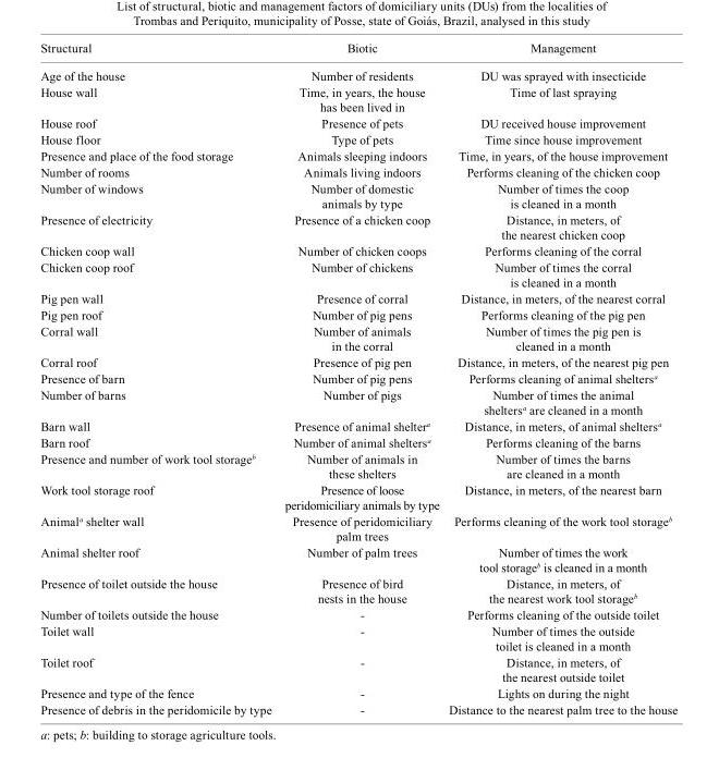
<table><thead><tr><td>Structural</td><td>Biotic</td><td>Management</td></tr></thead><tbody><tr><td>Age of the house</td><td>Number of residents</td><td>DU was sprayed with insecticide</td></tr><tr><td>House wall</td><td>Time, in years, the house has been lived in</td><td>Time of last spraying</td></tr><tr><td>House roof</td><td>Presence of pets</td><td>DU received house improvement</td></tr><tr><td>House floor</td><td>Type of pets</td><td>Time since house improvement</td></tr><tr><td>Presence and place of the food storage</td><td>Animals sleeping indoors</td><td>Time, in years, of the house improvement</td></tr><tr><td>Number of rooms</td><td>Animals living indoors</td><td>Performs cleaning of the chicken coop</td></tr><tr><td>Number of windows</td><td>Number of domestic animals by type</td><td>Number of times the coop is cleaned in a month</td></tr><tr><td>Presence of electricity</td><td>Presence of a chicken coop</td><td>Distance, in meters, of the nearest chicken coop</td></tr><tr><td>Chicken coop wall</td><td>Number of chicken coops</td><td>Performs cleaning of the corral</td></tr><tr><td>Chicken coop roof</td><td>Number of chickens</td><td>Number of times the corral is cleaned in a month</td></tr><tr><td>Pig pen wall</td><td>Presence of corral</td><td>Distance, in meters, of the nearest corral</td></tr><tr><td>Pig pen roof</td><td>Number of pig pens</td><td>Performs cleaning of the pig pen</td></tr><tr><td>Corral wall</td><td>Number of animals in the corral</td><td>Number of times the pig pen is cleaned in a month</td></tr><tr><td>Corral roof</td><td>Presence of pig pen</td><td>Distance, in meters, of the nearest pig pen</td></tr><tr><td>Presence of barn</td><td>Number of pig pens</td><td>Performs cleaning of animal shelters<sup>a</sup></td></tr><tr><td>Number of barns</td><td>Number of pigs</td><td>Number of times the animal shelters<sup>a</sup> are cleaned in a month</td></tr><tr><td>Barn wall</td><td>Presence of animal shelter<sup>a</sup></td><td>Distance, in meters, of animal shelters<sup>a</sup></td></tr><tr><td>Barn roof</td><td>Number of animal shelters<sup>a</sup></td><td>Performs cleaning of the barns</td></tr><tr><td>Presence and number of work tool storage<sup>b</sup></td><td>Number of animals in these shelters</td><td>Number of times the barns are cleaned in a month</td></tr><tr><td>Work tool storage roof</td><td>Presence of loose peridomiciliary animals by type</td><td>Distance, in meters, of the nearest barn</td></tr><tr><td>Animal<sup>a</sup> shelter wall</td><td>Presence of peridomiciliary palm trees</td><td>Performs cleaning of the work tool storage<sup>b</sup></td></tr><tr><td>Animal shelter roof</td><td>Number of palm trees</td><td>Number of times the work tool storage<sup>b</sup> is cleaned in a month</td></tr><tr><td>Presence of toilet outside the house</td><td>Presence of bird nests in the house</td><td>Distance, in meters, of the nearest work tool storage<sup>b</sup></td></tr><tr><td>Number of toilets outside the house</td><td>-</td><td>Performs cleaning of the outside toilet</td></tr><tr><td>Toilet wall</td><td>-</td><td>Number of times the outside toilet is cleaned in a month</td></tr><tr><td>Toilet roof</td><td>-</td><td>Distance, in meters, of the nearest outside toilet</td></tr><tr><td>Presence and type of the fence</td><td>-</td><td>Lights on during the night</td></tr><tr><td>Presence of debris in the peridomicile by type</td><td>-</td><td>Distance to the nearest palm tree to the house</td></tr></tbody></table>